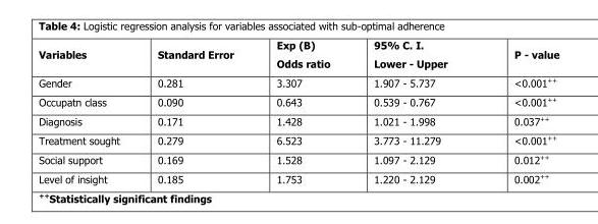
<table><thead><tr><td>Variables</td><td>Standard Error</td><td>Exp (B) Odds ratio</td><td>95% C. I. Lower - Upper</td><td>P - value</td></tr></thead><tbody><tr><td>Gender</td><td>0.281</td><td>3.307</td><td>1.907 - 5.737</td><td>&lt;0.001++</td></tr><tr><td>Occupatn class</td><td>0.090</td><td>0.643</td><td>0.539 - 0.767</td><td>&lt;0.001++</td></tr><tr><td>Diagnosis</td><td>0.171</td><td>1.428</td><td>1.021 - 1.998</td><td>0.037++</td></tr><tr><td>Treatment sought</td><td>0.279</td><td>6.523</td><td>3.773 - 11.279</td><td>&lt;0.001++</td></tr><tr><td>Social support</td><td>0.169</td><td>1.528</td><td>1.097 - 2.129</td><td>0.012++</td></tr><tr><td>Level of insight</td><td>0.185</td><td>1.753</td><td>1.220 - 2.129</td><td>0.002++</td></tr></tbody></table>